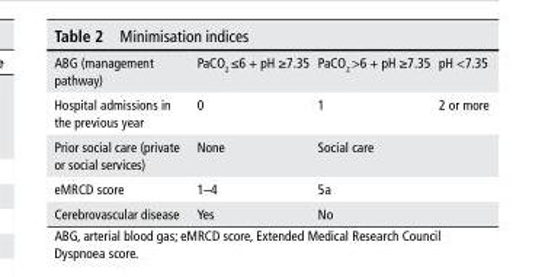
<table><tbody><tr><td>ABG (management pathway)</td><td>PaCO<sub>2</sub> ≤6 + pH ≥7.35</td><td>PaCO<sub>2</sub> &gt;6 + pH ≥7.35</td><td>pH &lt;7.35</td></tr><tr><td>Hospital admissions in the previous year</td><td>0</td><td>1</td><td>2 or more</td></tr><tr><td>Prior social care (private or social services)</td><td>None</td><td>Social care</td><td></td></tr><tr><td>eMRCD score</td><td>1–4</td><td>5a</td><td></td></tr><tr><td>Cerebrovascular disease</td><td>Yes</td><td>No</td><td></td></tr></tbody></table>